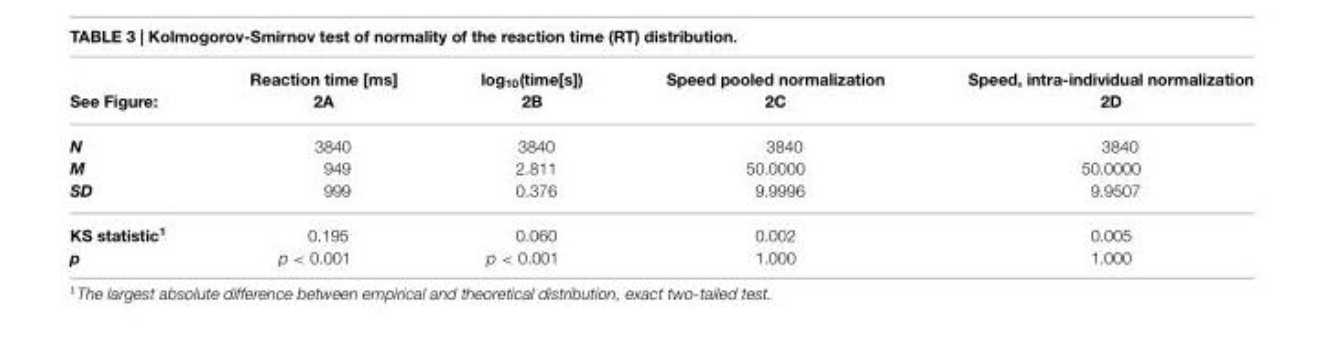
<table><thead><tr><td rowspan="2">See Figure:</td><td rowspan="2">Reaction time [ms] 2A</td><td rowspan="2">log<sub>10</sub>(time[s]) 2B</td><td rowspan="2">Speed pooled normalization 2C</td><td rowspan="2">Speed, intra-individual normalization 2D</td></tr><tr></tr></thead><tbody><tr><td>N</td><td>3840</td><td>3840</td><td>3840</td><td>3840</td></tr><tr><td>M</td><td>949</td><td>2.811</td><td>50.0000</td><td>50.0000</td></tr><tr><td>SD</td><td>999</td><td>0.376</td><td>9.9996</td><td>9.9507</td></tr><tr><td>KS statistic<sup>1</sup></td><td>0.195</td><td>0.060</td><td>0.002</td><td>0.005</td></tr><tr><td>p</td><td>p &lt; 0.001</td><td>p &lt; 0.001</td><td>1.000</td><td>1.000</td></tr></tbody></table>